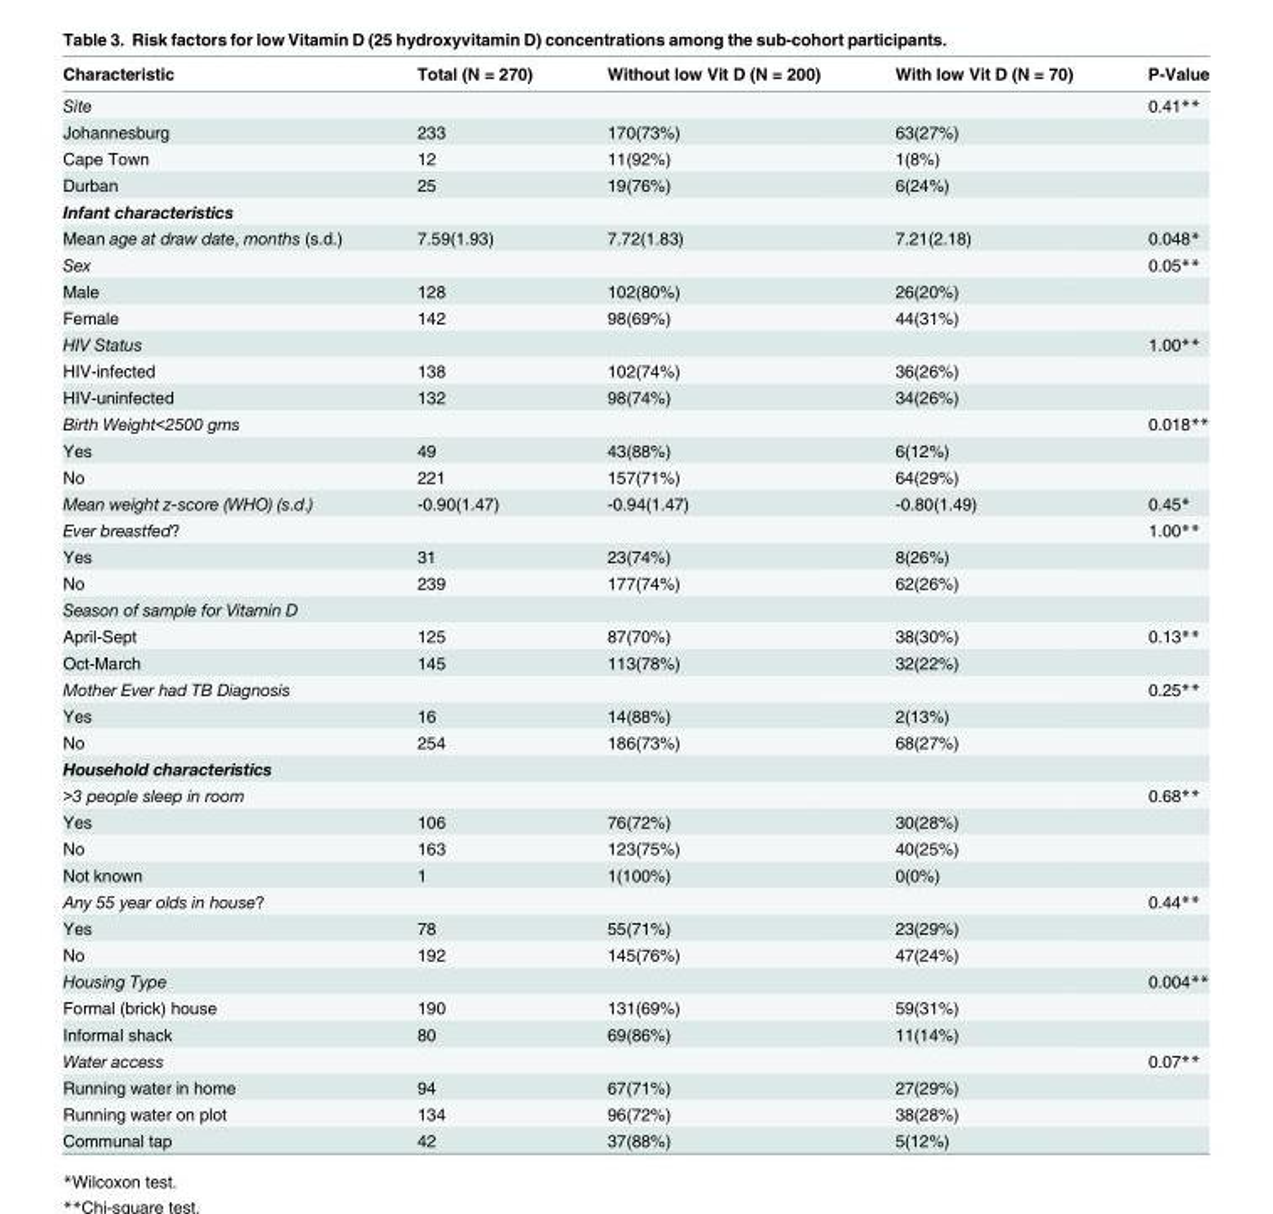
<table><thead><tr><td>Characteristic</td><td>Total (N = 270)</td><td>Without low Vit D (N = 200)</td><td>With low Vit D (N = 70)</td><td>P-Value</td></tr></thead><tbody><tr><td>Site</td><td></td><td></td><td></td><td>0.41**</td></tr><tr><td>Johannesburg</td><td>233</td><td>170(73%)</td><td>63(27%)</td><td></td></tr><tr><td>Cape Town</td><td>12</td><td>11(92%)</td><td>1(8%)</td><td></td></tr><tr><td>Durban</td><td>25</td><td>19(76%)</td><td>6(24%)</td><td></td></tr><tr><td colspan="5">Infant characteristics</td></tr><tr><td>Mean age at draw date, months (s.d.)</td><td>7.59(1.93)</td><td>7.72(1.83)</td><td>7.21(2.18)</td><td>0.048*</td></tr><tr><td>Sex</td><td></td><td></td><td></td><td>0.05**</td></tr><tr><td>Male</td><td>128</td><td>102(80%)</td><td>26(20%)</td><td></td></tr><tr><td>Female</td><td>142</td><td>98(69%)</td><td>44(31%)</td><td></td></tr><tr><td>HIV Status</td><td></td><td></td><td></td><td>1.00**</td></tr><tr><td>HIV-infected</td><td>138</td><td>102(74%)</td><td>36(26%)</td><td></td></tr><tr><td>HIV-uninfected</td><td>132</td><td>98(74%)</td><td>34(26%)</td><td></td></tr><tr><td>Birth Weight&lt;2500 gms</td><td></td><td></td><td></td><td>0.018**</td></tr><tr><td>Yes</td><td>49</td><td>43(88%)</td><td>6(12%)</td><td></td></tr><tr><td>No</td><td>221</td><td>157(71%)</td><td>64(29%)</td><td></td></tr><tr><td>Mean weight z-score (WHO) (s.d.)</td><td>-0.90(1.47)</td><td>-0.94(1.47)</td><td>-0.80(1.49)</td><td>0.45*</td></tr><tr><td>Ever breastfed?</td><td></td><td></td><td></td><td>1.00**</td></tr><tr><td>Yes</td><td>31</td><td>23(74%)</td><td>8(26%)</td><td></td></tr><tr><td>No</td><td>239</td><td>177(74%)</td><td>62(26%)</td><td></td></tr><tr><td colspan="5">Season of sample for Vitamin D</td></tr><tr><td>April-Sept</td><td>125</td><td>87(70%)</td><td>38(30%)</td><td>0.13**</td></tr><tr><td>Oct-March</td><td>145</td><td>113(78%)</td><td>32(22%)</td><td></td></tr><tr><td>Mother Ever had TB Diagnosis</td><td></td><td></td><td></td><td>0.25**</td></tr><tr><td>Yes</td><td>16</td><td>14(88%)</td><td>2(13%)</td><td></td></tr><tr><td>No</td><td>254</td><td>186(73%)</td><td>68(27%)</td><td></td></tr><tr><td colspan="5">Household characteristics</td></tr><tr><td>&gt;3 people sleep in room</td><td></td><td></td><td></td><td>0.68**</td></tr><tr><td>Yes</td><td>106</td><td>76(72%)</td><td>30(28%)</td><td></td></tr><tr><td>No</td><td>163</td><td>123(75%)</td><td>40(25%)</td><td></td></tr><tr><td>Not known</td><td>1</td><td>1(100%)</td><td>0(0%)</td><td></td></tr><tr><td>Any 55 year olds in house?</td><td></td><td></td><td></td><td>0.44**</td></tr><tr><td>Yes</td><td>78</td><td>55(71%)</td><td>23(29%)</td><td></td></tr><tr><td>No</td><td>192</td><td>145(76%)</td><td>47(24%)</td><td></td></tr><tr><td>Housing Type</td><td></td><td></td><td></td><td>0.004**</td></tr><tr><td>Formal (brick) house</td><td>190</td><td>131(69%)</td><td>59(31%)</td><td></td></tr><tr><td>Informal shack</td><td>80</td><td>69(86%)</td><td>11(14%)</td><td></td></tr><tr><td>Water access</td><td></td><td></td><td></td><td>0.07**</td></tr><tr><td>Running water in home</td><td>94</td><td>67(71%)</td><td>27(29%)</td><td></td></tr><tr><td>Running water on plot</td><td>134</td><td>96(72%)</td><td>38(28%)</td><td></td></tr><tr><td>Communal tap</td><td>42</td><td>37(88%)</td><td>5(12%)</td><td></td></tr></tbody></table>